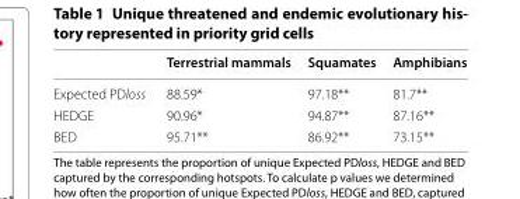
<table><thead><tr><td></td><td>Terrestrial mammals</td><td>Squamates</td><td>Amphibians</td></tr></thead><tbody><tr><td>Expected PDloss</td><td>88.59*</td><td>97.18**</td><td>81.7**</td></tr><tr><td>HEDGE</td><td>90.96*</td><td>94.87**</td><td>87.16**</td></tr><tr><td>BED</td><td>95.71**</td><td>86.92**</td><td>73.15**</td></tr></tbody></table>